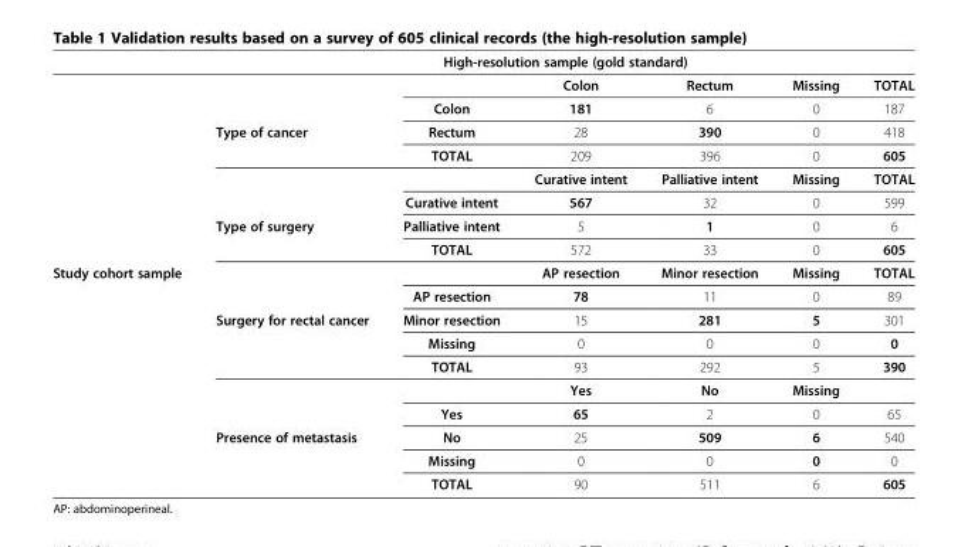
<table><thead><tr><td rowspan="2"></td><td colspan="6">High-resolution sample (gold standard)</td></tr><tr><td></td><td></td><td>Colon</td><td>Rectum</td><td>Missing</td><td>TOTAL</td></tr></thead><tbody><tr><td></td><td></td><td>Colon</td><td>181</td><td>6</td><td>0</td><td>187</td></tr><tr><td></td><td>Type of cancer</td><td>Rectum</td><td>28</td><td>390</td><td>0</td><td>418</td></tr><tr><td></td><td></td><td>TOTAL</td><td>209</td><td>396</td><td>0</td><td>605</td></tr><tr><td></td><td></td><td></td><td>Curative intent</td><td>Palliative intent</td><td>Missing</td><td>TOTAL</td></tr><tr><td></td><td></td><td>Curative intent</td><td>567</td><td>32</td><td>0</td><td>599</td></tr><tr><td></td><td>Type of surgery</td><td>Palliative intent</td><td>5</td><td>1</td><td>0</td><td>6</td></tr><tr><td></td><td></td><td>TOTAL</td><td>572</td><td>33</td><td>0</td><td>605</td></tr><tr><td rowspan="10">Study cohort sample</td><td></td><td></td><td>AP resection</td><td>Minor resection</td><td>Missing</td><td>TOTAL</td></tr><tr><td></td><td>AP resection</td><td>78</td><td>11</td><td>0</td><td>89</td></tr><tr><td>Surgery for rectal cancer</td><td>Minor resection</td><td>15</td><td>281</td><td>5</td><td>301</td></tr><tr><td></td><td>Missing</td><td>0</td><td>0</td><td>0</td><td>0</td></tr><tr><td></td><td>TOTAL</td><td>93</td><td>292</td><td>5</td><td>390</td></tr><tr><td></td><td></td><td>Yes</td><td>No</td><td>Missing</td><td></td></tr><tr><td></td><td>Yes</td><td>65</td><td>2</td><td>0</td><td>65</td></tr><tr><td>Presence of metastasis</td><td>No</td><td>25</td><td>509</td><td>6</td><td>540</td></tr><tr><td></td><td>Missing</td><td>0</td><td>0</td><td>0</td><td>0</td></tr><tr><td></td><td>TOTAL</td><td>90</td><td>511</td><td>6</td><td>605</td></tr></tbody></table>